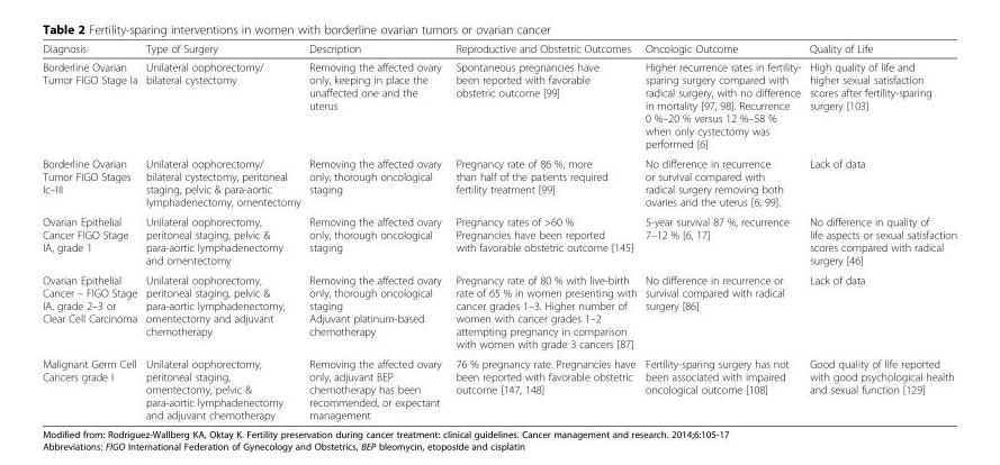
<table><thead><tr><td>Diagnosis</td><td>Type of Surgery</td><td>Description</td><td>Reproductive and Obstetric Outcomes</td><td>Oncologic Outcome</td><td>Quality of Life</td></tr></thead><tbody><tr><td>Borderline Ovarian Tumor FIGO Stage Ia</td><td>Unilateral oophorectomy/ bilateral cystectomy</td><td>Removing the affected ovary only, keeping in place the unaffected one and the uterus</td><td>Spontaneous pregnancies have been reported with favorable obstetric outcome [99]</td><td>Higher recurrence rates in fertility- sparing surgery compared with radical surgery, with no difference in mortality [97, 98]. Recurrence 0 %–20 % versus 12 %–58 % when only cystectomy was performed [6]</td><td>High quality of life and higher sexual satisfaction scores after fertility-sparing surgery [103]</td></tr><tr><td>Borderline Ovarian Tumor FIGO Stages Ic–III</td><td>Unilateral oophorectomy/ bilateral cystectomy, peritoneal staging, pelvic &amp; para-aortic lymphadenectomy, omentectomy</td><td>Removing the affected ovary only, thorough oncological staging</td><td>Pregnancy rate of 86 %, more than half of the patients required fertility treatment [99]</td><td>No difference in recurrence or survival compared with radical surgery removing both ovaries and the uterus [6, 99].</td><td>Lack of data</td></tr><tr><td>Ovarian Epithelial Cancer FIGO Stage IA, grade 1</td><td>Unilateral oophorectomy, peritoneal staging, pelvic &amp; para-aortic lymphadenectomy and omentectomy</td><td>Removing the affected ovary only, thorough oncological staging</td><td>Pregnancy rates of &gt;60 % Pregnancies have been reported with favorable obstetric outcome [145]</td><td>5-year survival 87 %, recurrence 7–12 % [6, 17]</td><td>No difference in quality of life aspects or sexual satisfaction scores compared with radical surgery [46]</td></tr><tr><td>Ovarian Epithelial Cancer – FIGO Stage IA, grade 2–3 or Clear Cell Carcinoma</td><td>Unilateral oophorectomy, peritoneal staging, pelvic &amp; para-aortic lymphadenectomy, omentectomy and adjuvant chemotherapy</td><td>Removing the affected ovary only, thorough oncological staging Adjuvant platinum-based chemotherapy</td><td>Pregnancy rate of 80 % with live-birth rate of 65 % in women presenting with cancer grades 1–3. Higher number of women with cancer grades 1–2 attempting pregnancy in comparison with women with grade 3 cancers [87]</td><td>No difference in recurrence or survival compared with radical surgery [86]</td><td>Lack of data</td></tr><tr><td>Malignant Germ Cell Cancers grade I</td><td>Unilateral oophorectomy, peritoneal staging, omentectomy, pelvic &amp; para-aortic lymphadenectomy and adjuvant chemotherapy</td><td>Removing the affected ovary only, adjuvant BEP chemotherapy has been recommended, or expectant management</td><td>76 % pregnancy rate. Pregnancies have been reported with favorable obstetric outcome [147, 148]</td><td>Fertility-sparing surgery has not been associated with impaired oncological outcome [108]</td><td>Good quality of life reported with good psychological health and sexual function [129]</td></tr></tbody></table>